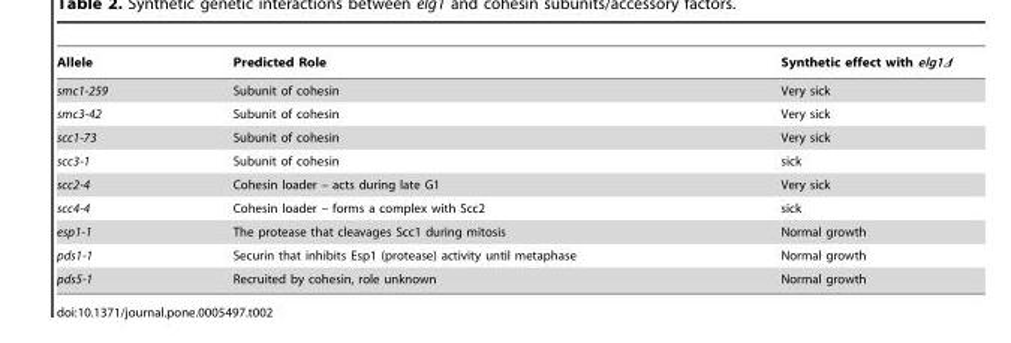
<table><thead><tr><td>Allele</td><td>Predicted Role</td><td>Synthetic effect with elg1Δ</td></tr></thead><tbody><tr><td>smc1-259</td><td>Subunit of cohesin</td><td>Very sick</td></tr><tr><td>smc3-42</td><td>Subunit of cohesin</td><td>Very sick</td></tr><tr><td>scc1-73</td><td>Subunit of cohesin</td><td>Very sick</td></tr><tr><td>scc3-1</td><td>Subunit of cohesin</td><td>sick</td></tr><tr><td>scc2-4</td><td>Cohesin loader – acts during late G1</td><td>Very sick</td></tr><tr><td>scc4-4</td><td>Cohesin loader – forms a complex with Scc2</td><td>sick</td></tr><tr><td>esp1-1</td><td>The protease that cleavages Scc1 during mitosis</td><td>Normal growth</td></tr><tr><td>pds1-1</td><td>Securin that inhibits Esp1 (protease) activity until metaphase</td><td>Normal growth</td></tr><tr><td>pds5-1</td><td>Recruited by cohesin, role unknown</td><td>Normal growth</td></tr></tbody></table>